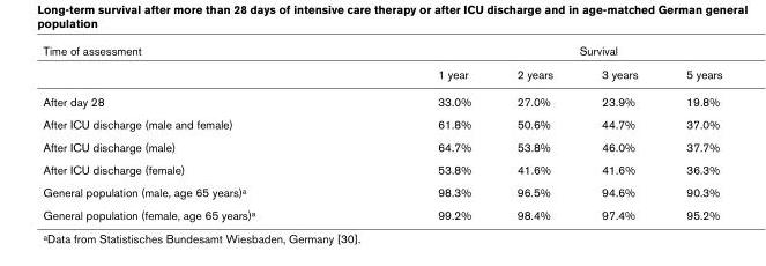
<table><thead><tr><td rowspan="2">Time of assessment</td><td colspan="4">Survival</td></tr><tr><td>1 year</td><td>2 years</td><td>3 years</td><td>5 years</td></tr></thead><tbody><tr><td>After day 28</td><td>33.0%</td><td>27.0%</td><td>23.9%</td><td>19.8%</td></tr><tr><td>After ICU discharge (male and female)</td><td>61.8%</td><td>50.6%</td><td>44.7%</td><td>37.0%</td></tr><tr><td>After ICU discharge (male)</td><td>64.7%</td><td>53.8%</td><td>46.0%</td><td>37.7%</td></tr><tr><td>After ICU discharge (female)</td><td>53.8%</td><td>41.6%</td><td>41.6%</td><td>36.3%</td></tr><tr><td>General population (male, age 65 years)<sup>a</sup></td><td>98.3%</td><td>96.5%</td><td>94.6%</td><td>90.3%</td></tr><tr><td>General population (female, age 65 years)<sup>a</sup></td><td>99.2%</td><td>98.4%</td><td>97.4%</td><td>95.2%</td></tr></tbody></table>